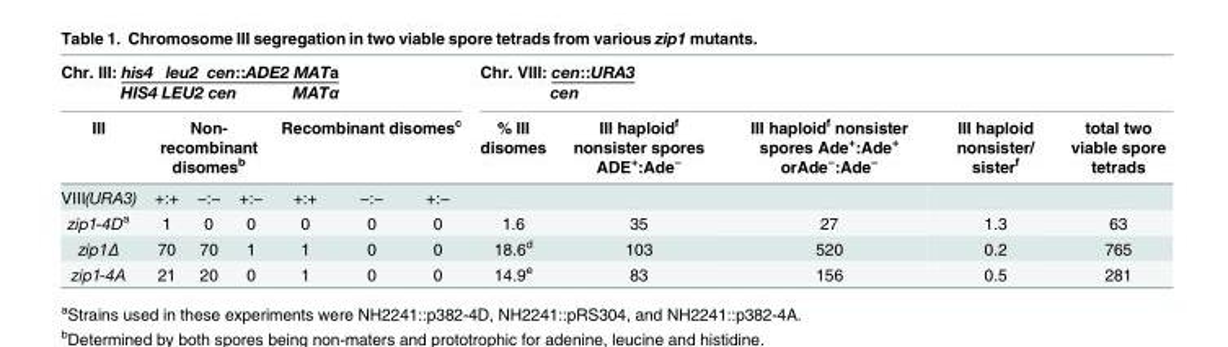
<table><thead><tr><td rowspan="2" colspan="7">Chr. III: his4 leu2 cen::ADE2 MATa HIS4 LEU2 cen MATα</td><td rowspan="2" colspan="5">Chr. VIII: cen::URA3 cen</td></tr><tr></tr><tr><td rowspan="2">III VIII(URA3)</td><td colspan="3">Non- recombinant disomes<sup>b</sup></td><td colspan="3">Recombinant disomes<sup>c</sup></td><td rowspan="2">% III disomes</td><td rowspan="2">III haploid<sup>f</sup> nonsister spores ADE<sup>+</sup>:Ade<sup>−</sup></td><td rowspan="2">III haploid<sup>f</sup> nonsister spores Ade<sup>+</sup>:Ade<sup>+</sup> orAde<sup>−</sup>:Ade<sup>−</sup></td><td rowspan="2">III haploid nonsister/ sister<sup>f</sup></td><td rowspan="2">total two viable spore tetrads</td></tr><tr><td>+:+</td><td>−:−</td><td>+:−</td><td>+:+</td><td>−:−</td><td>+:−</td></tr></thead><tbody><tr><td>zip1-4D<sup>a</sup></td><td>1</td><td>0</td><td>0</td><td>0</td><td>0</td><td>0</td><td>1.6</td><td>35</td><td>27</td><td>1.3</td><td>63</td></tr><tr><td>zip1Δ</td><td>70</td><td>70</td><td>1</td><td>1</td><td>0</td><td>0</td><td>18.6<sup>d</sup></td><td>103</td><td>520</td><td>0.2</td><td>765</td></tr><tr><td>zip1-4A</td><td>21</td><td>20</td><td>0</td><td>1</td><td>0</td><td>0</td><td>14.9<sup>e</sup></td><td>83</td><td>156</td><td>0.5</td><td>281</td></tr></tbody></table>